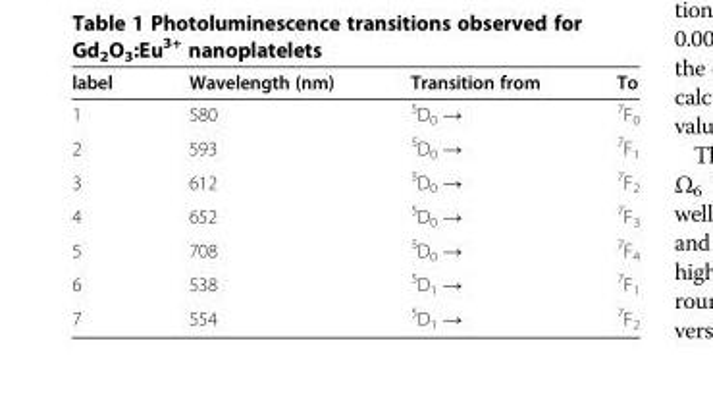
<table><thead><tr><td>label</td><td>Wavelength (nm)</td><td>Transition from</td><td>To</td></tr></thead><tbody><tr><td>1</td><td>580</td><td><sup>5</sup>D<sub>0</sub> →</td><td><sup>7</sup>F<sub>0</sub></td></tr><tr><td>2</td><td>593</td><td><sup>5</sup>D<sub>0</sub> →</td><td><sup>7</sup>F<sub>1</sub></td></tr><tr><td>3</td><td>612</td><td><sup>5</sup>D<sub>0</sub> →</td><td><sup>7</sup>F<sub>2</sub></td></tr><tr><td>4</td><td>652</td><td><sup>5</sup>D<sub>0</sub> →</td><td><sup>7</sup>F<sub>3</sub></td></tr><tr><td>5</td><td>708</td><td><sup>5</sup>D<sub>0</sub> →</td><td><sup>7</sup>F<sub>4</sub></td></tr><tr><td>6</td><td>538</td><td><sup>5</sup>D<sub>1</sub> →</td><td><sup>7</sup>F<sub>1</sub></td></tr><tr><td>7</td><td>554</td><td><sup>5</sup>D<sub>1</sub> →</td><td><sup>7</sup>F<sub>2</sub></td></tr></tbody></table>